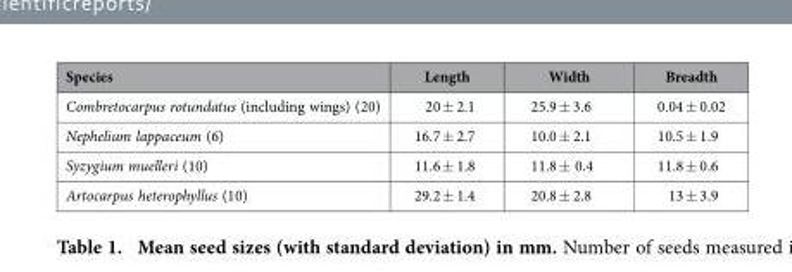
<table><thead><tr><td>Species</td><td>Length</td><td>Width</td><td>Breadth</td></tr></thead><tbody><tr><td>Combretocarpus rotundatus (including wings) (20)</td><td>20 ± 2.1</td><td>25.9 ± 3.6</td><td>0.04 ± 0.02</td></tr><tr><td>Nephelium lappaceum (6)</td><td>16.7 ± 2.7</td><td>10.0 ± 2.1</td><td>10.5 ± 1.9</td></tr><tr><td>Syzygium muelleri (10)</td><td>11.6 ± 1.8</td><td>11.8 ± 0.4</td><td>11.8 ± 0.6</td></tr><tr><td>Artocarpus heterophyllus (10)</td><td>29.2 ± 1.4</td><td>20.8 ± 2.8</td><td>13 ± 3.9</td></tr></tbody></table>